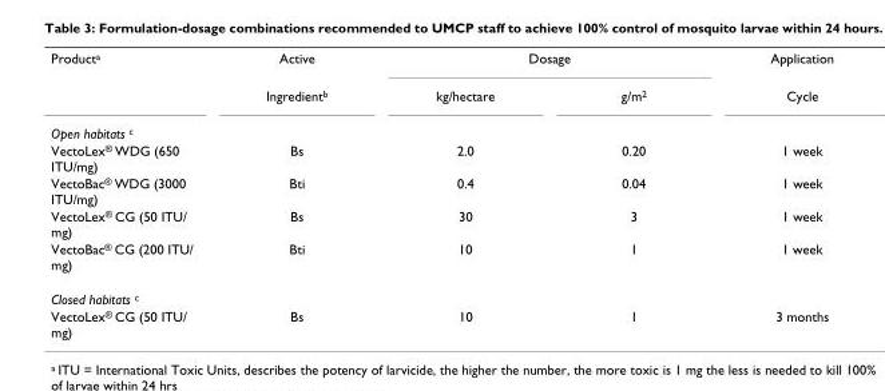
<table><tbody><tr><td rowspan="2">Product<sup>a</sup></td><td>Active</td><td colspan="2">Dosage</td><td>Application</td></tr><tr><td>Ingredient<sup>b</sup></td><td>kg/hectare</td><td>g/m<sup>2</sup></td><td>Cycle</td></tr><tr><td colspan="5">Open habitats <sup>c</sup></td></tr><tr><td>VectoLex<sup>®</sup> WDG (650 ITU/mg)</td><td>Bs</td><td>2.0</td><td>0.20</td><td>1 week</td></tr><tr><td>VectoBac<sup>®</sup> WDG (3000 ITU/mg)</td><td>Bti</td><td>0.4</td><td>0.04</td><td>1 week</td></tr><tr><td>VectoLex<sup>®</sup> CG (50 ITU/ mg)</td><td>Bs</td><td>30</td><td>3</td><td>1 week</td></tr><tr><td>VectoBac<sup>®</sup> CG (200 ITU/ mg)</td><td>Bti</td><td>10</td><td>1</td><td>1 week</td></tr><tr><td colspan="5">Closed habitats <sup>c</sup></td></tr><tr><td>VectoLex<sup>®</sup> CG (50 ITU/ mg)</td><td>Bs</td><td>10</td><td>1</td><td>3 months</td></tr></tbody></table>